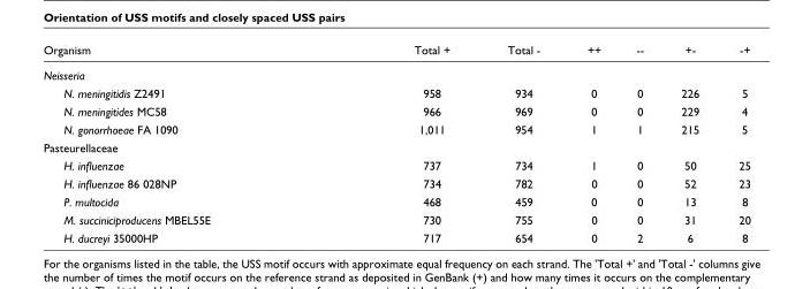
<table><thead><tr><td>Organism</td><td>Total +</td><td>Total -</td><td>++</td><td>--</td><td>+-</td><td>-+</td></tr></thead><tbody><tr><td colspan="7">Neisseria</td></tr><tr><td>N. meningitidis Z2491</td><td>958</td><td>934</td><td>0</td><td>0</td><td>226</td><td>5</td></tr><tr><td>N. meningitides MC58</td><td>966</td><td>969</td><td>0</td><td>0</td><td>229</td><td>4</td></tr><tr><td>N. gonorrhoeae FA 1090</td><td>1,011</td><td>954</td><td>1</td><td>1</td><td>215</td><td>5</td></tr><tr><td colspan="7">Pasteurellaceae</td></tr><tr><td>H. influenzae</td><td>737</td><td>734</td><td>1</td><td>0</td><td>50</td><td>25</td></tr><tr><td>H. influenzae 86 028NP</td><td>734</td><td>782</td><td>0</td><td>0</td><td>52</td><td>23</td></tr><tr><td>P. multocida</td><td>468</td><td>459</td><td>0</td><td>0</td><td>13</td><td>8</td></tr><tr><td>M. succiniciproducens MBEL55E</td><td>730</td><td>755</td><td>0</td><td>0</td><td>31</td><td>20</td></tr><tr><td>H. ducreyi 35000HP</td><td>717</td><td>654</td><td>0</td><td>2</td><td>6</td><td>8</td></tr></tbody></table>